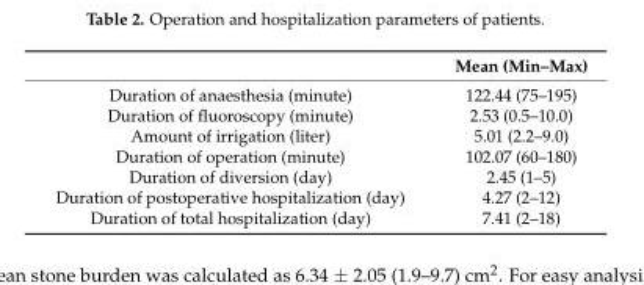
<table><thead><tr><td></td><td>Mean (Min–Max)</td></tr></thead><tbody><tr><td>Duration of anaesthesia (minute)</td><td>122.44 (75–195)</td></tr><tr><td>Duration of fluoroscopy (minute)</td><td>2.53 (0.5–10.0)</td></tr><tr><td>Amount of irrigation (liter)</td><td>5.01 (2.2–9.0)</td></tr><tr><td>Duration of operation (minute)</td><td>102.07 (60–180)</td></tr><tr><td>Duration of diversion (day)</td><td>2.45 (1–5)</td></tr><tr><td>Duration of postoperative hospitalization (day)</td><td>4.27 (2–12)</td></tr><tr><td>Duration of total hospitalization (day)</td><td>7.41 (2–18)</td></tr></tbody></table>